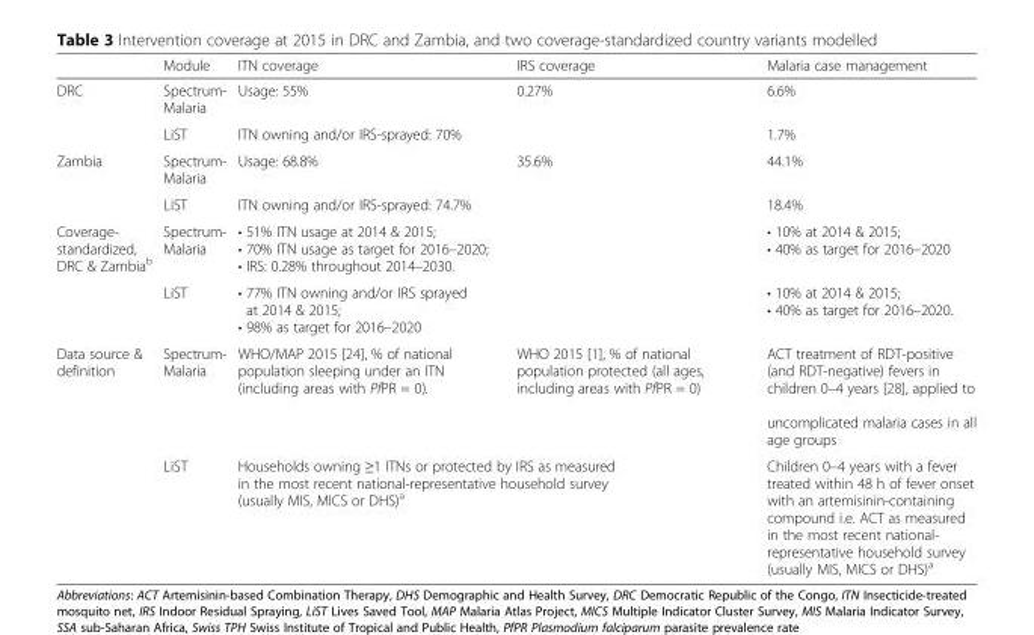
<table><thead><tr><td></td><td>Module</td><td>ITN coverage</td><td>IRS coverage</td><td>Malaria case management</td></tr></thead><tbody><tr><td rowspan="2">DRC</td><td>Spectrum- Malaria</td><td>Usage: 55%</td><td>0.27%</td><td>6.6%</td></tr><tr><td>LiST</td><td colspan="2">ITN owning and/or IRS-sprayed: 70%</td><td>1.7%</td></tr><tr><td rowspan="2">Zambia</td><td>Spectrum- Malaria</td><td>Usage: 68.8%</td><td>35.6%</td><td>44.1%</td></tr><tr><td>LiST</td><td colspan="2">ITN owning and/or IRS-sprayed: 74.7%</td><td>18.4%</td></tr><tr><td rowspan="2">Coverage- standardized, DRC &amp; Zambia<sup>b</sup></td><td>Spectrum- Malaria</td><td colspan="2">• 51% ITN usage at 2014 &amp; 2015; • 70% ITN usage as target for 2016–2020; • IRS: 0.28% throughout 2014–2030.</td><td>• 10% at 2014 &amp; 2015; • 40% as target for 2016–2020</td></tr><tr><td>LiST</td><td colspan="2">• 77% ITN owning and/or IRS sprayed at 2014 &amp; 2015; • 98% as target for 2016–2020</td><td>• 10% at 2014 &amp; 2015; • 40% as target for 2016–2020.</td></tr><tr><td rowspan="2">Data source &amp; definition</td><td>Spectrum- Malaria</td><td>WHO/MAP 2015 [24], % of national population sleeping under an ITN (including areas with PfPR = 0).</td><td>WHO 2015 [1], % of national population protected (all ages, including areas with PfPR = 0)</td><td>ACT treatment of RDT-positive (and RDT-negative) fevers in children 0–4 years [28], applied to uncomplicated malaria cases in all age groups</td></tr><tr><td>LiST</td><td colspan="2">Households owning ≥1 ITNs or protected by IRS as measured in the most recent national-representative household survey (usually MIS, MICS or DHS)<sup>a</sup></td><td>Children 0–4 years with a fever treated within 48 h of fever onset with an artemisinin-containing compound i.e. ACT as measured in the most recent national- representative household survey (usually MIS, MICS or DHS)<sup>a</sup></td></tr></tbody></table>